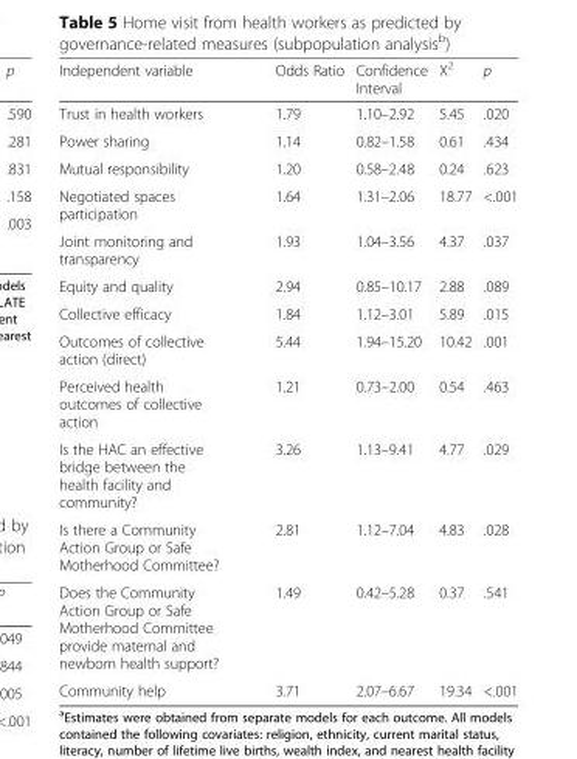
<table><thead><tr><td>Independent variable</td><td>Odds Ratio</td><td>Confidence Interval</td><td>Χ<sup>2</sup></td><td>p</td></tr></thead><tbody><tr><td>Trust in health workers</td><td>1.79</td><td>1.10–2.92</td><td>5.45</td><td>.020</td></tr><tr><td>Power sharing</td><td>1.14</td><td>0.82–1.58</td><td>0.61</td><td>.434</td></tr><tr><td>Mutual responsibility</td><td>1.20</td><td>0.58–2.48</td><td>0.24</td><td>.623</td></tr><tr><td>Negotiated spaces participation</td><td>1.64</td><td>1.31–2.06</td><td>18.77</td><td>&lt;.001</td></tr><tr><td>Joint monitoring and transparency</td><td>1.93</td><td>1.04–3.56</td><td>4.37</td><td>.037</td></tr><tr><td>Equity and quality</td><td>2.94</td><td>0.85–10.17</td><td>2.88</td><td>.089</td></tr><tr><td>Collective efficacy</td><td>1.84</td><td>1.12–3.01</td><td>5.89</td><td>.015</td></tr><tr><td>Outcomes of collective action (direct)</td><td>5.44</td><td>1.94–15.20</td><td>10.42</td><td>.001</td></tr><tr><td>Perceived health outcomes of collective action</td><td>1.21</td><td>0.73–2.00</td><td>0.54</td><td>.463</td></tr><tr><td>Is the HAC an effective bridge between the health facility and community?</td><td>3.26</td><td>1.13–9.41</td><td>4.77</td><td>.029</td></tr><tr><td>Is there a Community Action Group or Safe Motherhood Committee?</td><td>2.81</td><td>1.12–7.04</td><td>4.83</td><td>.028</td></tr><tr><td>Does the Community Action Group or Safe Motherhood Committee provide maternal and newborn health support?</td><td>1.49</td><td>0.42–5.28</td><td>0.37</td><td>.541</td></tr><tr><td>Community help</td><td>3.71</td><td>2.07–6.67</td><td>19.34</td><td>&lt;.001</td></tr></tbody></table>